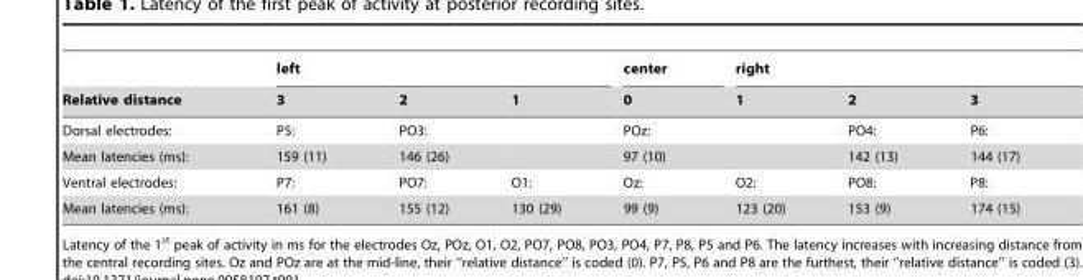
<table><thead><tr><td rowspan="2">Relative distance</td><td colspan="3">left</td><td rowspan="2">center 0</td><td colspan="3">right</td></tr><tr><td>3</td><td>2</td><td>1</td><td>1</td><td>2</td><td>3</td></tr></thead><tbody><tr><td>Dorsal electrodes:</td><td>P5:</td><td>PO3:</td><td></td><td>POz:</td><td></td><td>PO4:</td><td>P6:</td></tr><tr><td>Mean latencies (ms):</td><td>159 (11)</td><td>146 (26)</td><td></td><td>97 (10)</td><td></td><td>142 (13)</td><td>144 (17)</td></tr><tr><td>Ventral electrodes:</td><td>P7:</td><td>PO7:</td><td>O1:</td><td>Oz:</td><td>O2:</td><td>PO8:</td><td>P8:</td></tr><tr><td>Mean latencies (ms):</td><td>161 (8)</td><td>155 (12)</td><td>130 (29)</td><td>99 (9)</td><td>123 (20)</td><td>153 (9)</td><td>174 (15)</td></tr></tbody></table>